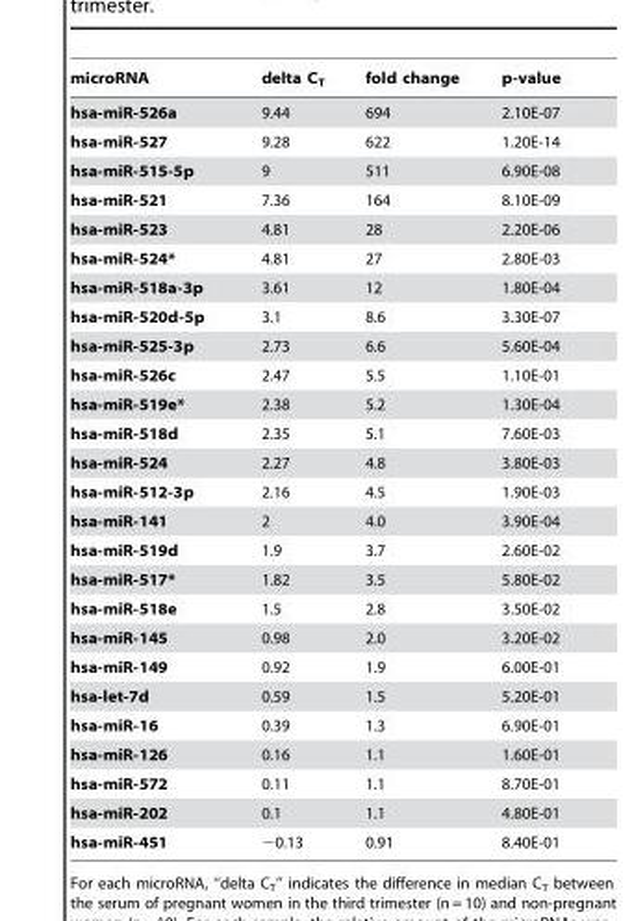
<table><thead><tr><td>microRNA</td><td>delta C<sub>T</sub></td><td>fold change</td><td>p-value</td></tr></thead><tbody><tr><td>hsa-miR-526a</td><td>9.44</td><td>694</td><td>2.10E-07</td></tr><tr><td>hsa-miR-527</td><td>9.28</td><td>622</td><td>1.20E-14</td></tr><tr><td>hsa-miR-515-5p</td><td>9</td><td>511</td><td>6.90E-08</td></tr><tr><td>hsa-miR-521</td><td>7.36</td><td>164</td><td>8.10E-09</td></tr><tr><td>hsa-miR-523</td><td>4.81</td><td>28</td><td>2.20E-06</td></tr><tr><td>hsa-miR-524*</td><td>4.81</td><td>27</td><td>2.80E-03</td></tr><tr><td>hsa-miR-518a-3p</td><td>3.61</td><td>12</td><td>1.80E-04</td></tr><tr><td>hsa-miR-520d-5p</td><td>3.1</td><td>8.6</td><td>3.30E-07</td></tr><tr><td>hsa-miR-525-3p</td><td>2.73</td><td>6.6</td><td>5.60E-04</td></tr><tr><td>hsa-miR-526c</td><td>2.47</td><td>5.5</td><td>1.10E-01</td></tr><tr><td>hsa-miR-519e*</td><td>2.38</td><td>5.2</td><td>1.30E-04</td></tr><tr><td>hsa-miR-518d</td><td>2.35</td><td>5.1</td><td>7.60E-03</td></tr><tr><td>hsa-miR-524</td><td>2.27</td><td>4.8</td><td>3.80E-03</td></tr><tr><td>hsa-miR-512-3p</td><td>2.16</td><td>4.5</td><td>1.90E-03</td></tr><tr><td>hsa-miR-141</td><td>2</td><td>4.0</td><td>3.90E-04</td></tr><tr><td>hsa-miR-519d</td><td>1.9</td><td>3.7</td><td>2.60E-02</td></tr><tr><td>hsa-miR-517*</td><td>1.82</td><td>3.5</td><td>5.80E-02</td></tr><tr><td>hsa-miR-518e</td><td>1.5</td><td>2.8</td><td>3.50E-02</td></tr><tr><td>hsa-miR-145</td><td>0.98</td><td>2.0</td><td>3.20E-02</td></tr><tr><td>hsa-miR-149</td><td>0.92</td><td>1.9</td><td>6.00E-01</td></tr><tr><td>hsa-let-7d</td><td>0.59</td><td>1.5</td><td>5.20E-01</td></tr><tr><td>hsa-miR-16</td><td>0.39</td><td>1.3</td><td>6.90E-01</td></tr><tr><td>hsa-miR-126</td><td>0.16</td><td>1.1</td><td>1.60E-01</td></tr><tr><td>hsa-miR-572</td><td>0.11</td><td>1.1</td><td>8.70E-01</td></tr><tr><td>hsa-miR-202</td><td>0.1</td><td>1.1</td><td>4.80E-01</td></tr><tr><td>hsa-miR-451</td><td>−0.13</td><td>0.91</td><td>8.40E-01</td></tr></tbody></table>